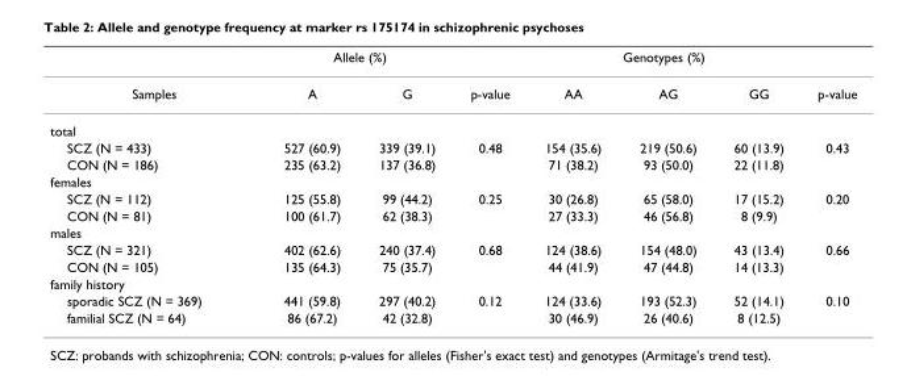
<table><thead><tr><td rowspan="2">Samples</td><td colspan="2">Allele (%)</td><td rowspan="2">p-value</td><td colspan="3">Genotypes (%)</td><td rowspan="2">p-value</td></tr><tr><td>A</td><td>G</td><td>AA</td><td>AG</td><td>GG</td></tr></thead><tbody><tr><td colspan="8">total</td></tr><tr><td>SCZ (N = 433)</td><td>527 (60.9)</td><td>339 (39.1)</td><td>0.48</td><td>154 (35.6)</td><td>219 (50.6)</td><td>60 (13.9)</td><td>0.43</td></tr><tr><td>CON (N = 186)</td><td>235 (63.2)</td><td>137 (36.8)</td><td></td><td>71 (38.2)</td><td>93 (50.0)</td><td>22 (11.8)</td><td></td></tr><tr><td colspan="8">females</td></tr><tr><td>SCZ (N = 112)</td><td>125 (55.8)</td><td>99 (44.2)</td><td>0.25</td><td>30 (26.8)</td><td>65 (58.0)</td><td>17 (15.2)</td><td>0.20</td></tr><tr><td>CON (N = 81)</td><td>100 (61.7)</td><td>62 (38.3)</td><td></td><td>27 (33.3)</td><td>46 (56.8)</td><td>8 (9.9)</td><td></td></tr><tr><td colspan="8">males</td></tr><tr><td>SCZ (N = 321)</td><td>402 (62.6)</td><td>240 (37.4)</td><td>0.68</td><td>124 (38.6)</td><td>154 (48.0)</td><td>43 (13.4)</td><td>0.66</td></tr><tr><td>CON (N = 105)</td><td>135 (64.3)</td><td>75 (35.7)</td><td></td><td>44 (41.9)</td><td>47 (44.8)</td><td>14 (13.3)</td><td></td></tr><tr><td colspan="8">family history</td></tr><tr><td>sporadic SCZ (N = 369)</td><td>441 (59.8)</td><td>297 (40.2)</td><td>0.12</td><td>124 (33.6)</td><td>193 (52.3)</td><td>52 (14.1)</td><td>0.10</td></tr><tr><td>familial SCZ (N = 64)</td><td>86 (67.2)</td><td>42 (32.8)</td><td></td><td>30 (46.9)</td><td>26 (40.6)</td><td>8 (12.5)</td><td></td></tr></tbody></table>